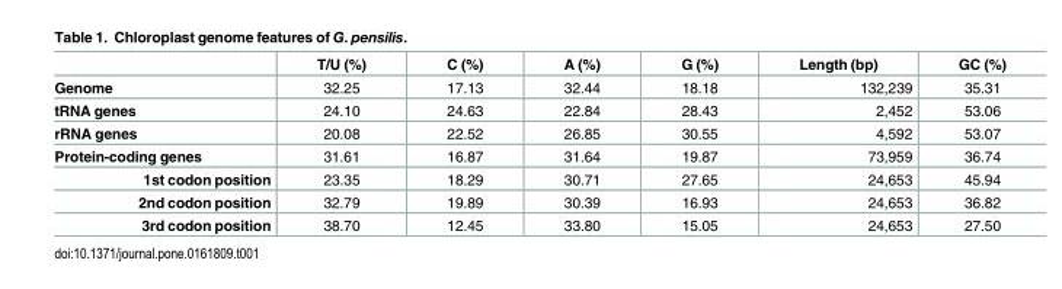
<table><thead><tr><td></td><td>T/U (%)</td><td>C (%)</td><td>A (%)</td><td>G (%)</td><td>Length (bp)</td><td>GC (%)</td></tr></thead><tbody><tr><td>Genome</td><td>32.25</td><td>17.13</td><td>32.44</td><td>18.18</td><td>132,239</td><td>35.31</td></tr><tr><td>tRNA genes</td><td>24.10</td><td>24.63</td><td>22.84</td><td>28.43</td><td>2,452</td><td>53.06</td></tr><tr><td>rRNA genes</td><td>20.08</td><td>22.52</td><td>26.85</td><td>30.55</td><td>4,592</td><td>53.07</td></tr><tr><td>Protein-coding genes</td><td>31.61</td><td>16.87</td><td>31.64</td><td>19.87</td><td>73,959</td><td>36.74</td></tr><tr><td>1st codon position</td><td>23.35</td><td>18.29</td><td>30.71</td><td>27.65</td><td>24,653</td><td>45.94</td></tr><tr><td>2nd codon position</td><td>32.79</td><td>19.89</td><td>30.39</td><td>16.93</td><td>24,653</td><td>36.82</td></tr><tr><td>3rd codon position</td><td>38.70</td><td>12.45</td><td>33.80</td><td>15.05</td><td>24,653</td><td>27.50</td></tr></tbody></table>